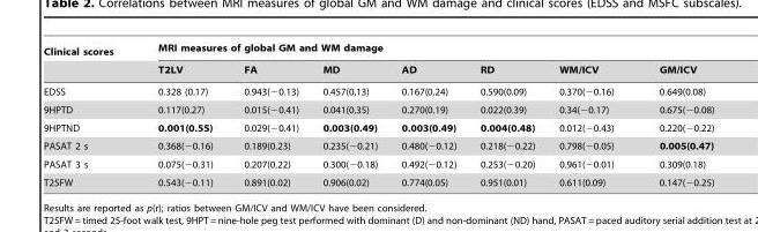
<table><thead><tr><td rowspan="2">Clinical scores</td><td colspan="7">MRI measures of global GM and WM damage</td></tr><tr><td>T2LV</td><td>FA</td><td>MD</td><td>AD</td><td>RD</td><td>WM/ICV</td><td>GM/ICV</td></tr></thead><tbody><tr><td>EDSS</td><td>0.328 (0.17)</td><td>0.943(−0.13)</td><td>0.457(0.13)</td><td>0.167(0.24)</td><td>0.590(0.09)</td><td>0.370(−0.16)</td><td>0.649(0.08)</td></tr><tr><td>9HPTD</td><td>0.117(0.27)</td><td>0.015(−0.41)</td><td>0.041(0.35)</td><td>0.270(0.19)</td><td>0.022(0.39)</td><td>0.34(−0.17)</td><td>0.675(−0.08)</td></tr><tr><td>9HPTND</td><td>0.001(0.55)</td><td>0.029(−0.41)</td><td>0.003(0.49)</td><td>0.003(0.49)</td><td>0.004(0.48)</td><td>0.012(−0.43)</td><td>0.220(−0.22)</td></tr><tr><td>PASAT 2 s</td><td>0.368(−0.16)</td><td>0.189(0.23)</td><td>0.235(−0.21)</td><td>0.480(−0.12)</td><td>0.218(−0.22)</td><td>0.798(−0.05)</td><td>0.005(0.47)</td></tr><tr><td>PASAT 3 s</td><td>0.075(−0.31)</td><td>0.207(0.22)</td><td>0.300(−0.18)</td><td>0.492(−0.12)</td><td>0.253(−0.20)</td><td>0.961(−0.01)</td><td>0.309(0.18)</td></tr><tr><td>T25FW</td><td>0.543(−0.11)</td><td>0.891(0.02)</td><td>0.906(0.02)</td><td>0.774(0.05)</td><td>0.951(0.01)</td><td>0.611(0.09)</td><td>0.147(−0.25)</td></tr></tbody></table>